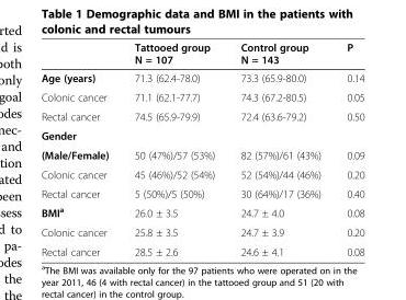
<table><thead><tr><td></td><td>Tattooed group N = 107</td><td>Control group N = 143</td><td>P</td></tr></thead><tbody><tr><td>Age (years)</td><td>71.3 (62.4-78.0)</td><td>73.3 (65.9-80.0)</td><td>0.14</td></tr><tr><td>Colonic cancer</td><td>71.1 (62.1-77.7)</td><td>74.3 (67.2-80.5)</td><td>0.05</td></tr><tr><td>Rectal cancer</td><td>74.5 (65.9-79.9)</td><td>72.4 (63.6-79.2)</td><td>0.50</td></tr><tr><td colspan="4">Gender</td></tr><tr><td>(Male/Female)</td><td>50 (47%)/57 (53%)</td><td>82 (57%)/61 (43%)</td><td>0.09</td></tr><tr><td>Colonic cancer</td><td>45 (46%)/52 (54%)</td><td>52 (54%)/44 (46%)</td><td>0.20</td></tr><tr><td>Rectal cancer</td><td>5 (50%)/5 (50%)</td><td>30 (64%)/17 (36%)</td><td>0.40</td></tr><tr><td>BMI<sup>a</sup></td><td>26.0 ± 3.5</td><td>24.7 ± 4.0</td><td>0.08</td></tr><tr><td>Colonic cancer</td><td>25.8 ± 3.5</td><td>24.7 ± 3.9</td><td>0.20</td></tr><tr><td>Rectal cancer</td><td>28.5 ± 2.6</td><td>24.6 ± 4.1</td><td>0.08</td></tr></tbody></table>